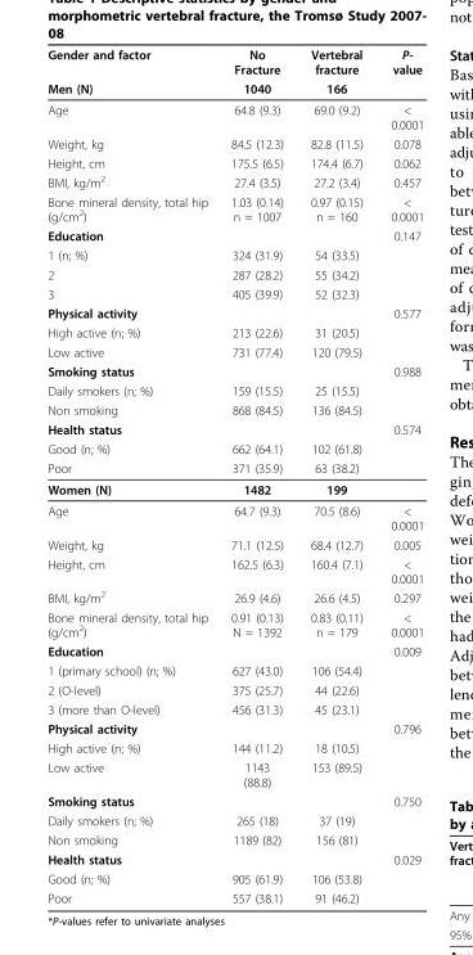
<table><thead><tr><td rowspan="2">Gender and factor Men (N)</td><td rowspan="2">No Fracture 1040</td><td rowspan="2">Vertebral fracture 166</td><td rowspan="2">P- value</td></tr><tr></tr></thead><tbody><tr><td>Age</td><td>64.8 (9.3)</td><td>69.0 (9.2)</td><td>&lt; 0.0001</td></tr><tr><td>Weight, kg</td><td>84.5 (12.3)</td><td>82.8 (11.5)</td><td>0.078</td></tr><tr><td>Height, cm</td><td>175.5 (6.5)</td><td>174.4 (6.7)</td><td>0.062</td></tr><tr><td>BMI, kg/m<sup>2</sup></td><td>27.4 (3.5)</td><td>27.2 (3.4)</td><td>0.457</td></tr><tr><td>Bone mineral density, total hip (g/cm<sup>2</sup>)</td><td>1.03 (0.14) n = 1007</td><td>0.97 (0.15) n = 160</td><td>&lt; 0.0001</td></tr><tr><td>Education</td><td></td><td></td><td>0.147</td></tr><tr><td>1 (n; %)</td><td>324 (31.9)</td><td>54 (33.5)</td><td></td></tr><tr><td>2</td><td>287 (28.2)</td><td>55 (34.2)</td><td></td></tr><tr><td>3</td><td>405 (39.9)</td><td>52 (32.3)</td><td></td></tr><tr><td>Physical activity</td><td></td><td></td><td>0.577</td></tr><tr><td>High active (n; %)</td><td>213 (22.6)</td><td>31 (20.5)</td><td></td></tr><tr><td>Low active</td><td>731 (77.4)</td><td>120 (79.5)</td><td></td></tr><tr><td>Smoking status</td><td></td><td></td><td>0.988</td></tr><tr><td>Daily smokers (n; %)</td><td>159 (15.5)</td><td>25 (15.5)</td><td></td></tr><tr><td>Non smoking</td><td>868 (84.5)</td><td>136 (84.5)</td><td></td></tr><tr><td>Health status</td><td></td><td></td><td>0.574</td></tr><tr><td>Good (n; %)</td><td>662 (64.1)</td><td>102 (61.8)</td><td></td></tr><tr><td>Poor</td><td>371 (35.9)</td><td>63 (38.2)</td><td></td></tr><tr><td>Women (N)</td><td>1482</td><td>199</td><td></td></tr><tr><td>Age</td><td>64.7 (9.3)</td><td>70.5 (8.6)</td><td>&lt; 0.0001</td></tr><tr><td>Weight, kg</td><td>71.1 (12.5)</td><td>68.4 (12.7)</td><td>0.005</td></tr><tr><td>Height, cm</td><td>162.5 (6.3)</td><td>160.4 (7.1)</td><td>&lt; 0.0001</td></tr><tr><td>BMI, kg/m<sup>2</sup></td><td>26.9 (4.6)</td><td>26.6 (4.5)</td><td>0.297</td></tr><tr><td>Bone mineral density, total hip (g/cm<sup>2</sup>)</td><td>0.91 (0.13) N = 1392</td><td>0.83 (0.11) n = 179</td><td>&lt; 0.0001</td></tr><tr><td>Education</td><td></td><td></td><td>0.009</td></tr><tr><td>1 (primary school) (n; %)</td><td>627 (43.0)</td><td>106 (54.4)</td><td></td></tr><tr><td>2 (O-level)</td><td>375 (25.7)</td><td>44 (22.6)</td><td></td></tr><tr><td>3 (more than O-level)</td><td>456 (31.3)</td><td>45 (23.1)</td><td></td></tr><tr><td>Physical activity</td><td></td><td></td><td>0.796</td></tr><tr><td>High active (n; %)</td><td>144 (11.2)</td><td>18 (10.5)</td><td></td></tr><tr><td>Low active</td><td>1143 (88.8)</td><td>153 (89.5)</td><td></td></tr><tr><td>Smoking status</td><td></td><td></td><td>0.750</td></tr><tr><td>Daily smokers (n; %)</td><td>265 (18)</td><td>37 (19)</td><td></td></tr><tr><td>Non smoking</td><td>1189 (82)</td><td>156 (81)</td><td></td></tr><tr><td>Health status</td><td></td><td></td><td>0.029</td></tr><tr><td>Good (n; %)</td><td>905 (61.9)</td><td>106 (53.8)</td><td></td></tr><tr><td>Poor</td><td>557 (38.1)</td><td>91 (46.2)</td><td></td></tr></tbody></table>